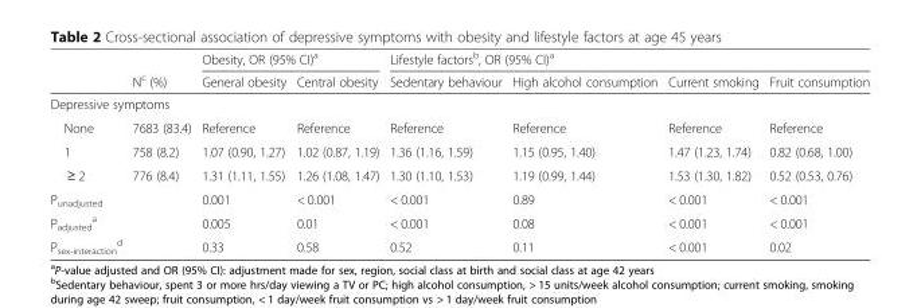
<table><thead><tr><td rowspan="2"></td><td rowspan="2">N<sup>c</sup> (%)</td><td colspan="2">Obesity, OR (95% CI)<sup>a</sup></td><td colspan="4">Lifestyle factors<sup>b</sup>, OR (95% CI)<sup>a</sup></td></tr><tr><td>General obesity</td><td>Central obesity</td><td>Sedentary behaviour</td><td>High alcohol consumption</td><td>Current smoking</td><td>Fruit consumption</td></tr></thead><tbody><tr><td colspan="8">Depressive symptoms</td></tr><tr><td>None</td><td>7683 (83.4)</td><td>Reference</td><td>Reference</td><td>Reference</td><td>Reference</td><td>Reference</td><td>Reference</td></tr><tr><td>1</td><td>758 (8.2)</td><td>1.07 (0.90, 1.27)</td><td>1.02 (0.87, 1.19)</td><td>1.36 (1.16, 1.59)</td><td>1.15 (0.95, 1.40)</td><td>1.47 (1.23, 1.74)</td><td>0.82 (0.68, 1.00)</td></tr><tr><td>≥ 2</td><td>776 (8.4)</td><td>1.31 (1.11, 1.55)</td><td>1.26 (1.08, 1.47)</td><td>1.30 (1.10, 1.53)</td><td>1.19 (0.99, 1.44)</td><td>1.53 (1.30, 1.82)</td><td>0.52 (0.53, 0.76)</td></tr><tr><td>P<sub>unadjusted</sub></td><td></td><td>0.001</td><td>&lt; 0.001</td><td>&lt; 0.001</td><td>0.89</td><td>&lt; 0.001</td><td>&lt; 0.001</td></tr><tr><td>P<sub>adjusted</sub> <sup>a</sup></td><td></td><td>0.005</td><td>0.01</td><td>&lt; 0.001</td><td>0.08</td><td>&lt; 0.001</td><td>&lt; 0.001</td></tr><tr><td>P<sub>sex-interaction</sub> <sup>d</sup></td><td></td><td>0.33</td><td>0.58</td><td>0.52</td><td>0.11</td><td>&lt; 0.001</td><td>0.02</td></tr></tbody></table>